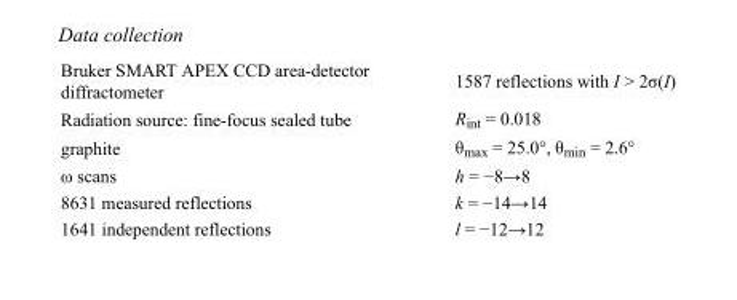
<table><tbody><tr><td>Bruker SMART APEX CCD area-detector diffractometer</td><td>1587 reflections with I &gt; 2σ(I)</td></tr><tr><td>Radiation source: fine-focus sealed tube</td><td>R<sub>int</sub> = 0.018</td></tr><tr><td>graphite</td><td>θ<sub>max</sub> = 25.0°, θ<sub>min</sub> = 2.6°</td></tr><tr><td>ω scans</td><td>h = −8→8</td></tr><tr><td>8631 measured reflections</td><td>k = −14→14</td></tr><tr><td>1641 independent reflections</td><td>l = −12→12</td></tr></tbody></table>